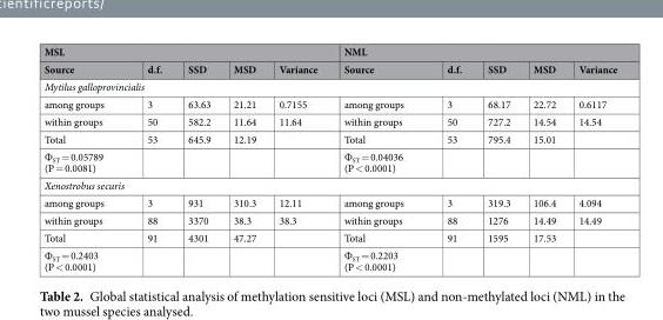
<table><thead><tr><td colspan="5">MSL</td><td colspan="5">NML</td></tr><tr><td>Source</td><td>d.f.</td><td>SSD</td><td>MSD</td><td>Variance</td><td>Source</td><td>d.f.</td><td>SSD</td><td>MSD</td><td>Variance</td></tr></thead><tbody><tr><td colspan="10">Mytilus galloprovincialis</td></tr><tr><td>among groups</td><td>3</td><td>63.63</td><td>21.21</td><td>0.7155</td><td>among groups</td><td>3</td><td>68.17</td><td>22.72</td><td>0.6117</td></tr><tr><td>within groups</td><td>50</td><td>582.2</td><td>11.64</td><td>11.64</td><td>within groups</td><td>50</td><td>727.2</td><td>14.54</td><td>14.54</td></tr><tr><td>Total</td><td>53</td><td>645.9</td><td>12.19</td><td></td><td>Total</td><td>53</td><td>795.4</td><td>15.01</td><td></td></tr><tr><td>Ф<sub>ST</sub> = 0.05789 (P = 0.0081)</td><td></td><td></td><td></td><td></td><td>Ф<sub>ST</sub> = 0.04036 (P &lt; 0.0001)</td><td></td><td></td><td></td><td></td></tr><tr><td colspan="10">Xenostrobus securis</td></tr><tr><td>among groups</td><td>3</td><td>931</td><td>310.3</td><td>12.11</td><td>among groups</td><td>3</td><td>319.3</td><td>106.4</td><td>4.094</td></tr><tr><td>within groups</td><td>88</td><td>3370</td><td>38.3</td><td>38.3</td><td>within groups</td><td>88</td><td>1276</td><td>14.49</td><td>14.49</td></tr><tr><td>Total</td><td>91</td><td>4301</td><td>47.27</td><td></td><td>Total</td><td>91</td><td>1595</td><td>17.53</td><td></td></tr><tr><td>Ф<sub>ST</sub> = 0.2403 (P &lt; 0.0001)</td><td></td><td></td><td></td><td></td><td>Ф<sub>ST</sub> = 0.2203 (P &lt; 0.0001)</td><td></td><td></td><td></td><td></td></tr></tbody></table>